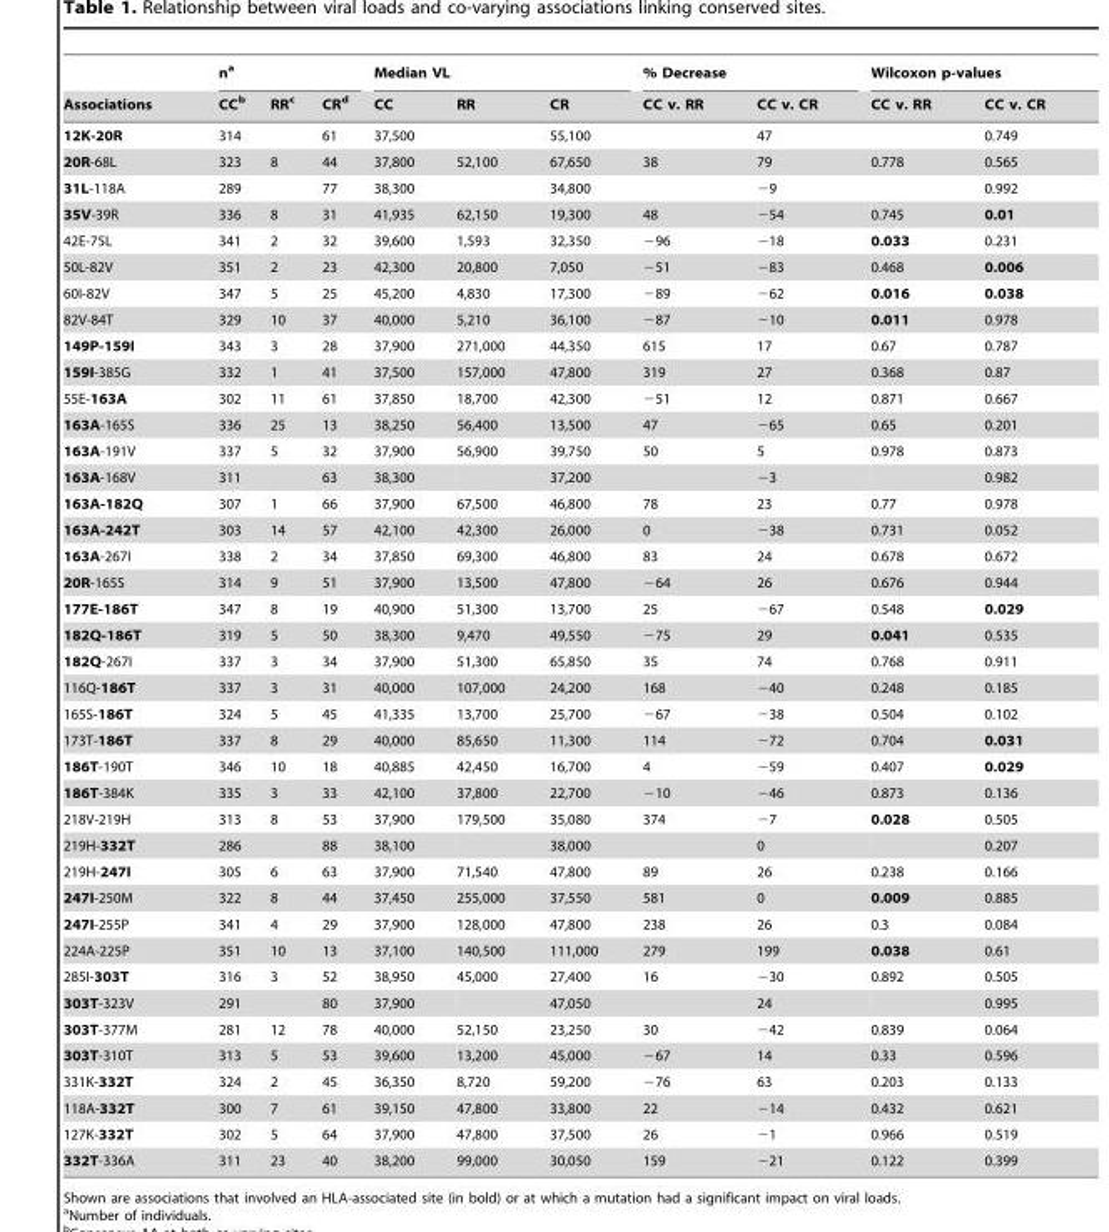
<table><thead><tr><td rowspan="2">Associations</td><td colspan="3">n<sup>a</sup></td><td colspan="3">Median VL</td><td colspan="2">% Decrease</td><td colspan="2">Wilcoxon p-values</td></tr><tr><td>CC<sup>b</sup></td><td>RR<sup>c</sup></td><td>CR<sup>d</sup></td><td>CC</td><td>RR</td><td>CR</td><td>CC v. RR</td><td>CC v. CR</td><td>CC v. RR</td><td>CC v. CR</td></tr></thead><tbody><tr><td>12K-20R</td><td>314</td><td></td><td>61</td><td>37,500</td><td></td><td>55,100</td><td></td><td>47</td><td></td><td>0.749</td></tr><tr><td>20R-68L</td><td>323</td><td>8</td><td>44</td><td>37,800</td><td>52,100</td><td>67,650</td><td>38</td><td>79</td><td>0.778</td><td>0.565</td></tr><tr><td>31L-118A</td><td>289</td><td></td><td>77</td><td>38,300</td><td></td><td>34,800</td><td></td><td>−9</td><td></td><td>0.992</td></tr><tr><td>35V-39R</td><td>336</td><td>8</td><td>31</td><td>41,935</td><td>62,150</td><td>19,300</td><td>48</td><td>−54</td><td>0.745</td><td>0.01</td></tr><tr><td>42E-75L</td><td>341</td><td>2</td><td>32</td><td>39,600</td><td>1,593</td><td>32,350</td><td>−96</td><td>−18</td><td>0.033</td><td>0.231</td></tr><tr><td>50L-82V</td><td>351</td><td>2</td><td>23</td><td>42,300</td><td>20,800</td><td>7,050</td><td>−51</td><td>−83</td><td>0.468</td><td>0.006</td></tr><tr><td>60I-82V</td><td>347</td><td>5</td><td>25</td><td>45,200</td><td>4,830</td><td>17,300</td><td>−89</td><td>−62</td><td>0.016</td><td>0.038</td></tr><tr><td>82V-84T</td><td>329</td><td>10</td><td>37</td><td>40,000</td><td>5,210</td><td>36,100</td><td>−87</td><td>−10</td><td>0.011</td><td>0.978</td></tr><tr><td>149P-159I</td><td>343</td><td>3</td><td>28</td><td>37,900</td><td>271,000</td><td>44,350</td><td>615</td><td>17</td><td>0.67</td><td>0.787</td></tr><tr><td>159I-385G</td><td>332</td><td>1</td><td>41</td><td>37,500</td><td>157,000</td><td>47,800</td><td>319</td><td>27</td><td>0.368</td><td>0.87</td></tr><tr><td>55E-163A</td><td>302</td><td>11</td><td>61</td><td>37,850</td><td>18,700</td><td>42,300</td><td>−51</td><td>12</td><td>0.871</td><td>0.667</td></tr><tr><td>163A-165S</td><td>336</td><td>25</td><td>13</td><td>38,250</td><td>56,400</td><td>13,500</td><td>47</td><td>−65</td><td>0.65</td><td>0.201</td></tr><tr><td>163A-191V</td><td>337</td><td>5</td><td>32</td><td>37,900</td><td>56,900</td><td>39,750</td><td>50</td><td>5</td><td>0.978</td><td>0.873</td></tr><tr><td>163A-168V</td><td>311</td><td></td><td>63</td><td>38,300</td><td></td><td>37,200</td><td></td><td>−3</td><td></td><td>0.982</td></tr><tr><td>163A-182Q</td><td>307</td><td>1</td><td>66</td><td>37,900</td><td>67,500</td><td>46,800</td><td>78</td><td>23</td><td>0.77</td><td>0.978</td></tr><tr><td>163A-242T</td><td>303</td><td>14</td><td>57</td><td>42,100</td><td>42,300</td><td>26,000</td><td>0</td><td>−38</td><td>0.731</td><td>0.052</td></tr><tr><td>163A-267I</td><td>338</td><td>2</td><td>34</td><td>37,850</td><td>69,300</td><td>46,800</td><td>83</td><td>24</td><td>0.678</td><td>0.672</td></tr><tr><td>20R-165S</td><td>314</td><td>9</td><td>51</td><td>37,900</td><td>13,500</td><td>47,800</td><td>−64</td><td>26</td><td>0.676</td><td>0.944</td></tr><tr><td>177E-186T</td><td>347</td><td>8</td><td>19</td><td>40,900</td><td>51,300</td><td>13,700</td><td>25</td><td>−67</td><td>0.548</td><td>0.029</td></tr><tr><td>182Q-186T</td><td>319</td><td>5</td><td>50</td><td>38,300</td><td>9,470</td><td>49,550</td><td>−75</td><td>29</td><td>0.041</td><td>0.535</td></tr><tr><td>182Q-267I</td><td>337</td><td>3</td><td>34</td><td>37,900</td><td>51,300</td><td>65,850</td><td>35</td><td>74</td><td>0.768</td><td>0.911</td></tr><tr><td>116Q-186T</td><td>337</td><td>3</td><td>31</td><td>40,000</td><td>107,000</td><td>24,200</td><td>168</td><td>−40</td><td>0.248</td><td>0.185</td></tr><tr><td>165S-186T</td><td>324</td><td>5</td><td>45</td><td>41,335</td><td>13,700</td><td>25,700</td><td>−67</td><td>−38</td><td>0.504</td><td>0.102</td></tr><tr><td>173T-186T</td><td>337</td><td>8</td><td>29</td><td>40,000</td><td>85,650</td><td>11,300</td><td>114</td><td>−72</td><td>0.704</td><td>0.031</td></tr><tr><td>186T-190T</td><td>346</td><td>10</td><td>18</td><td>40,885</td><td>42,450</td><td>16,700</td><td>4</td><td>−59</td><td>0.407</td><td>0.029</td></tr><tr><td>186T-384K</td><td>335</td><td>3</td><td>33</td><td>42,100</td><td>37,800</td><td>22,700</td><td>−10</td><td>−46</td><td>0.873</td><td>0.136</td></tr><tr><td>218V-219H</td><td>313</td><td>8</td><td>53</td><td>37,900</td><td>179,500</td><td>35,080</td><td>374</td><td>−7</td><td>0.028</td><td>0.505</td></tr><tr><td>219H-332T</td><td>286</td><td></td><td>88</td><td>38,100</td><td></td><td>38,000</td><td></td><td>0</td><td></td><td>0.207</td></tr><tr><td>219H-247I</td><td>305</td><td>6</td><td>63</td><td>37,900</td><td>71,540</td><td>47,800</td><td>89</td><td>26</td><td>0.238</td><td>0.166</td></tr><tr><td>247I-250M</td><td>322</td><td>8</td><td>44</td><td>37,450</td><td>255,000</td><td>37,550</td><td>581</td><td>0</td><td>0.009</td><td>0.885</td></tr><tr><td>247I-255P</td><td>341</td><td>4</td><td>29</td><td>37,900</td><td>128,000</td><td>47,800</td><td>238</td><td>26</td><td>0.3</td><td>0.084</td></tr><tr><td>224A-225P</td><td>351</td><td>10</td><td>13</td><td>37,100</td><td>140,500</td><td>111,000</td><td>279</td><td>199</td><td>0.038</td><td>0.61</td></tr><tr><td>285I-303T</td><td>316</td><td>3</td><td>52</td><td>38,950</td><td>45,000</td><td>27,400</td><td>16</td><td>−30</td><td>0.892</td><td>0.505</td></tr><tr><td>303T-323V</td><td>291</td><td></td><td>80</td><td>37,900</td><td></td><td>47,050</td><td></td><td>24</td><td></td><td>0.995</td></tr><tr><td>303T-377M</td><td>281</td><td>12</td><td>78</td><td>40,000</td><td>52,150</td><td>23,250</td><td>30</td><td>−42</td><td>0.839</td><td>0.064</td></tr><tr><td>303T-310T</td><td>313</td><td>5</td><td>53</td><td>39,600</td><td>13,200</td><td>45,000</td><td>−67</td><td>14</td><td>0.33</td><td>0.596</td></tr><tr><td>331K-332T</td><td>324</td><td>2</td><td>45</td><td>36,350</td><td>8,720</td><td>59,200</td><td>−76</td><td>63</td><td>0.203</td><td>0.133</td></tr><tr><td>118A-332T</td><td>300</td><td>7</td><td>61</td><td>39,150</td><td>47,800</td><td>33,800</td><td>22</td><td>−14</td><td>0.432</td><td>0.621</td></tr><tr><td>127K-332T</td><td>302</td><td>5</td><td>64</td><td>37,900</td><td>47,800</td><td>37,500</td><td>26</td><td>−1</td><td>0.966</td><td>0.519</td></tr><tr><td>332T-336A</td><td>311</td><td>23</td><td>40</td><td>38,200</td><td>99,000</td><td>30,050</td><td>159</td><td>−21</td><td>0.122</td><td>0.399</td></tr></tbody></table>